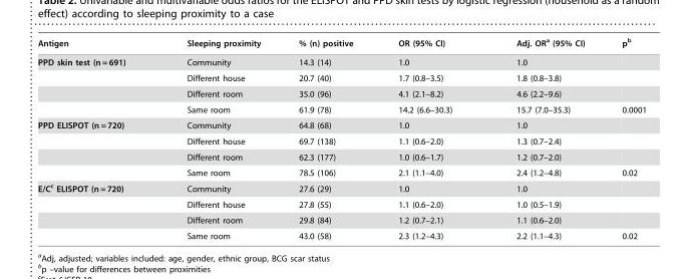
<table><thead><tr><td>Antigen</td><td>Sleeping proximity</td><td>% (n) positive</td><td>OR (95% CI)</td><td>Adj. OR<sup>a</sup> (95% CI)</td><td>p<sup>b</sup></td></tr></thead><tbody><tr><td rowspan="4">PPD skin test (n = 691)</td><td>Community</td><td>14.3 (14)</td><td>1.0</td><td>1.0</td><td></td></tr><tr><td>Different house</td><td>20.7 (40)</td><td>1.7 (0.8–3.5)</td><td>1.8 (0.8–3.8)</td><td></td></tr><tr><td>Different room</td><td>35.0 (96)</td><td>4.1 (2.1–8.2)</td><td>4.6 (2.2–9.6)</td><td></td></tr><tr><td>Same room</td><td>61.9 (78)</td><td>14.2 (6.6–30.3)</td><td>15.7 (7.0–35.3)</td><td>0.0001</td></tr><tr><td rowspan="4">PPD ELISPOT (n = 720)</td><td>Community</td><td>64.8 (68)</td><td>1.0</td><td>1.0</td><td></td></tr><tr><td>Different house</td><td>69.7 (138)</td><td>1.1 (0.6–2.0)</td><td>1.3 (0.7–2.4)</td><td></td></tr><tr><td>Different room</td><td>62.3 (177)</td><td>1.0 (0.6–1.7)</td><td>1.2 (0.7–2.0)</td><td></td></tr><tr><td>Same room</td><td>78.5 (106)</td><td>2.1 (1.1–4.0)</td><td>2.4 (1.2–4.8)</td><td>0.02</td></tr><tr><td rowspan="4">E/Cc ELISPOT (n = 720)</td><td>Community</td><td>27.6 (29)</td><td>1.0</td><td>1.0</td><td></td></tr><tr><td>Different house</td><td>27.8 (55)</td><td>1.1 (0.6–2.0)</td><td>1.0 (0.5–1.9)</td><td></td></tr><tr><td>Different room</td><td>29.8 (84)</td><td>1.2 (0.7–2.1)</td><td>1.1 (0.6–2.0)</td><td></td></tr><tr><td>Same room</td><td>43.0 (58)</td><td>2.3 (1.2–4.3)</td><td>2.2 (1.1–4.3)</td><td>0.02</td></tr></tbody></table>